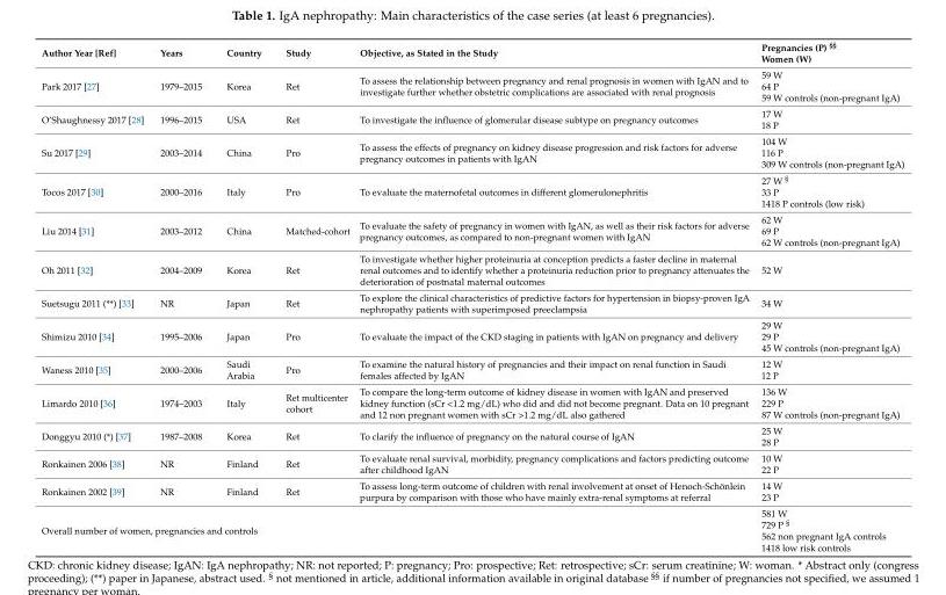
<table><thead><tr><td>Author Year [Ref]</td><td>Years</td><td>Country</td><td>Study</td><td>Objective, as Stated in the Study</td><td>Pregnancies (P) <sup>§§</sup> Women (W)</td></tr></thead><tbody><tr><td>Park 2017 [27]</td><td>1979–2015</td><td>Korea</td><td>Ret</td><td>To assess the relationship between pregnancy and renal prognosis in women with IgAN and to investigate further whether obstetric complications are associated with renal prognosis</td><td>59 W 64 P 59 W controls (non-pregnant IgA)</td></tr><tr><td>O’Shaughnessy 2017 [28]</td><td>1996–2015</td><td>USA</td><td>Ret</td><td>To investigate the influence of glomerular disease subtype on pregnancy outcomes</td><td>17 W 18 P</td></tr><tr><td>Su 2017 [29]</td><td>2003–2014</td><td>China</td><td>Pro</td><td>To assess the effects of pregnancy on kidney disease progression and risk factors for adverse pregnancy outcomes in patients with IgAN</td><td>104 W 116 P 309 W controls (non-pregnant IgA)</td></tr><tr><td>Tocos 2017 [30]</td><td>2000–2016</td><td>Italy</td><td>Pro</td><td>To evaluate the maternofetal outcomes in different glomerulonephritis</td><td>27 W <sup>§</sup> 33 P 1418 P controls (low risk)</td></tr><tr><td>Liu 2014 [31]</td><td>2003–2012</td><td>China</td><td>Matched-cohort</td><td>To evaluate the safety of pregnancy in women with IgAN, as well as their risk factors for adverse pregnancy outcomes, as compared to non-pregnant women with IgAN</td><td>62 W 69 P 62 W controls (non-pregnant IgA)</td></tr><tr><td>Oh 2011 [32]</td><td>2004–2009</td><td>Korea</td><td>Ret</td><td>To investigate whether higher proteinuria at conception predicts a faster decline in maternal renal outcomes and to identify whether a proteinuria reduction prior to pregnancy attenuates the deterioration of postnatal maternal outcomes</td><td>52 W</td></tr><tr><td>Suetsugu 2011 (**) [33]</td><td>NR</td><td>Japan</td><td>Ret</td><td>To explore the clinical characteristics of predictive factors for hypertension in biopsy-proven IgA nephropathy patients with superimposed preeclampsia</td><td>34 W</td></tr><tr><td>Shimizu 2010 [34]</td><td>1995–2006</td><td>Japan</td><td>Pro</td><td>To evaluate the impact of the CKD staging in patients with IgAN on pregnancy and delivery</td><td>29 W 29 P 45 W controls (non-pregnant IgA)</td></tr><tr><td>Waness 2010 [35]</td><td>2000–2006</td><td>Saudi Arabia</td><td>Pro</td><td>To examine the natural history of pregnancies and their impact on renal function in Saudi females affected by IgAN</td><td>12 W 12 P</td></tr><tr><td>Limardo 2010 [36]</td><td>1974–2003</td><td>Italy</td><td>Ret multicenter cohort</td><td>To compare the long-term outcome of kidney disease in women with IgAN and preserved kidney function (sCr &lt;1.2 mg/dL) who did and did not become pregnant. Data on 10 pregnant and 12 non pregnant women with sCr &gt;1.2 mg/dL also gathered</td><td>136 W 229 P 87 W controls (non-pregnant IgA)</td></tr><tr><td>Donggyu 2010 (*) [37]</td><td>1987–2008</td><td>Korea</td><td>Ret</td><td>To clarify the influence of pregnancy on the natural course of IgAN</td><td>25 W 28 P</td></tr><tr><td>Ronkainen 2006 [38]</td><td>NR</td><td>Finland</td><td>Ret</td><td>To evaluate renal survival, morbidity, pregnancy complications and factors predicting outcome after childhood IgAN</td><td>10 W 22 P</td></tr><tr><td>Ronkainen 2002 [39]</td><td>NR</td><td>Finland</td><td>Ret</td><td>To assess long-term outcome of children with renal involvement at onset of Henoch-Schönlein purpura by comparison with those who have mainly extra-renal symptoms at referral</td><td>14 W 23 P</td></tr><tr><td colspan="5">Overall number of women, pregnancies and controls</td><td>581 W 729 P <sup>§</sup> 562 non pregnant IgA controls 1418 low risk controls</td></tr></tbody></table>